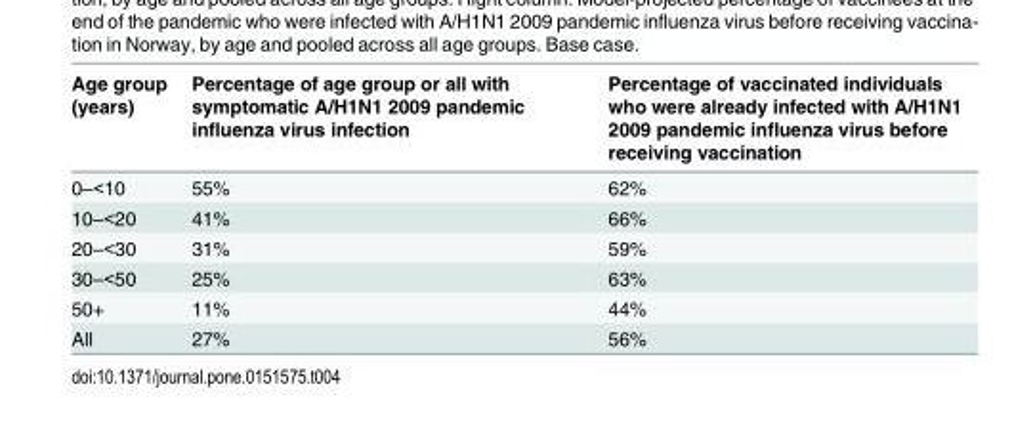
<table><thead><tr><td>Age group (years)</td><td>Percentage of age group or all with symptomatic A/H1N1 2009 pandemic influenza virus infection</td><td>Percentage of vaccinated individuals who were already infected with A/H1N1 2009 pandemic influenza virus before receiving vaccination</td></tr></thead><tbody><tr><td>0–&lt;10</td><td>55%</td><td>62%</td></tr><tr><td>10–&lt;20</td><td>41%</td><td>66%</td></tr><tr><td>20–&lt;30</td><td>31%</td><td>59%</td></tr><tr><td>30–&lt;50</td><td>25%</td><td>63%</td></tr><tr><td>50+</td><td>11%</td><td>44%</td></tr><tr><td>All</td><td>27%</td><td>56%</td></tr></tbody></table>